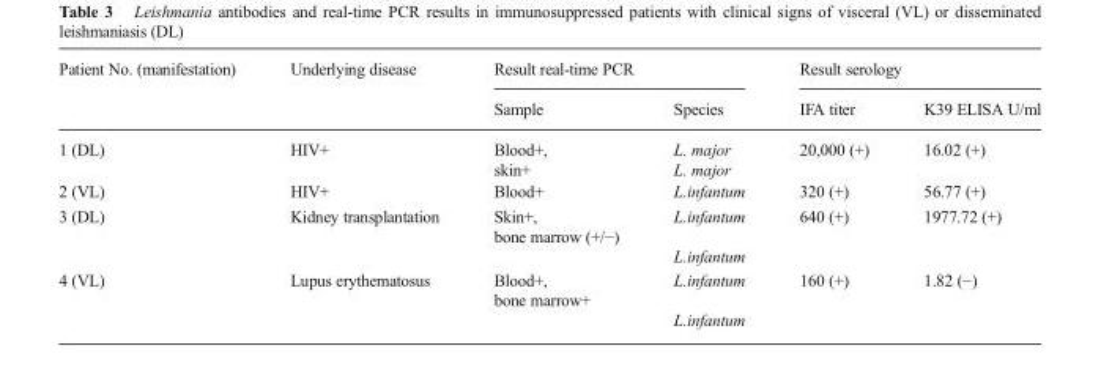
<table><thead><tr><td rowspan="2">Patient No. (manifestation)</td><td rowspan="2">Underlying disease</td><td colspan="2">Result real-time PCR</td><td colspan="2">Result serology</td></tr><tr><td>Sample</td><td>Species</td><td>IFA titer</td><td>K39 ELISA U/ml</td></tr></thead><tbody><tr><td>1 (DL)</td><td>HIV+</td><td>Blood+, skin+</td><td>L. major L. major</td><td>20,000 (+)</td><td>16.02 (+)</td></tr><tr><td>2 (VL)</td><td>HIV+</td><td>Blood+</td><td>L.infantum</td><td>320 (+)</td><td>56.77 (+)</td></tr><tr><td>3 (DL)</td><td>Kidney transplantation</td><td>Skin+, bone marrow (+/−)</td><td>L.infantum L.infantum</td><td>640 (+)</td><td>1977.72 (+)</td></tr><tr><td>4 (VL)</td><td>Lupus erythematosus</td><td>Blood+, bone marrow+</td><td>L.infantum L.infantum</td><td>160 (+)</td><td>1.82 (−)</td></tr></tbody></table>